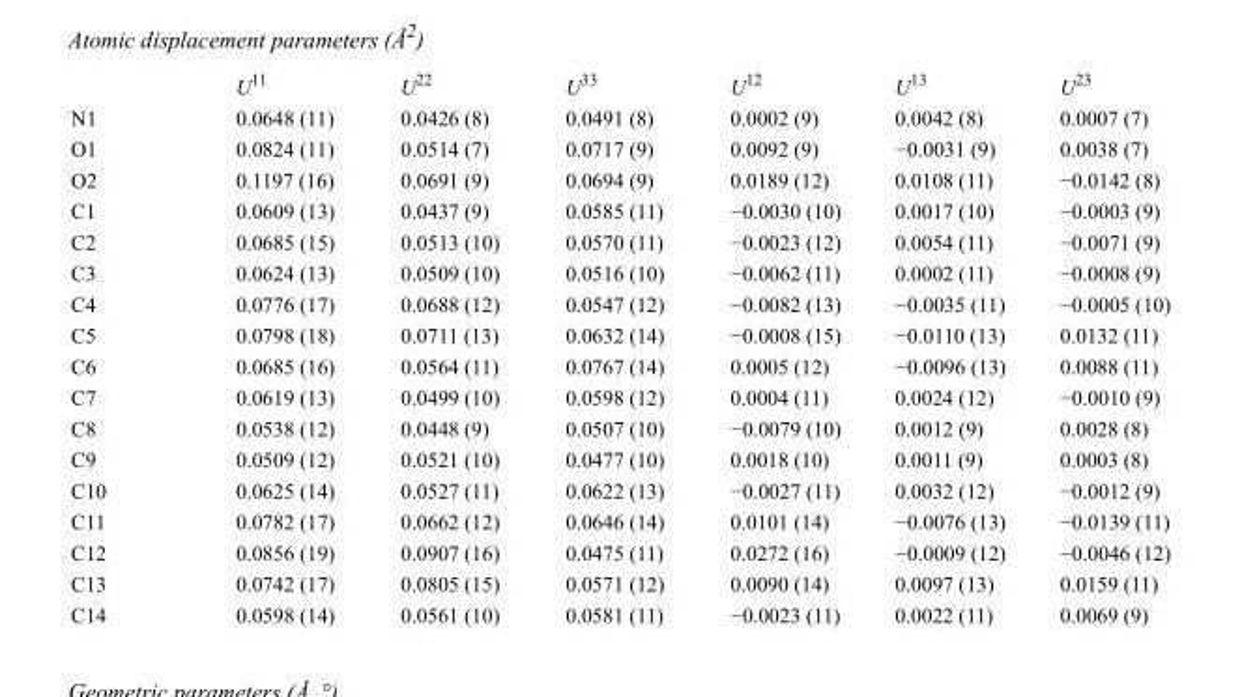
<table><thead><tr><td></td><td>U<sup>11</sup></td><td>U<sup>22</sup></td><td>U<sup>33</sup></td><td>U<sup>12</sup></td><td>U<sup>13</sup></td><td>U<sup>23</sup></td></tr></thead><tbody><tr><td>N1</td><td>0.0648 (11)</td><td>0.0426 (8)</td><td>0.0491 (8)</td><td>0.0002 (9)</td><td>0.0042 (8)</td><td>0.0007 (7)</td></tr><tr><td>O1</td><td>0.0824 (11)</td><td>0.0514 (7)</td><td>0.0717 (9)</td><td>0.0092 (9)</td><td>−0.0031 (9)</td><td>0.0038 (7)</td></tr><tr><td>O2</td><td>0.1197 (16)</td><td>0.0691 (9)</td><td>0.0694 (9)</td><td>0.0189 (12)</td><td>0.0108 (11)</td><td>−0.0142 (8)</td></tr><tr><td>C1</td><td>0.0609 (13)</td><td>0.0437 (9)</td><td>0.0585 (11)</td><td>−0.0030 (10)</td><td>0.0017 (10)</td><td>−0.0003 (9)</td></tr><tr><td>C2</td><td>0.0685 (15)</td><td>0.0513 (10)</td><td>0.0570 (11)</td><td>−0.0023 (12)</td><td>0.0054 (11)</td><td>−0.0071 (9)</td></tr><tr><td>C3</td><td>0.0624 (13)</td><td>0.0509 (10)</td><td>0.0516 (10)</td><td>−0.0062 (11)</td><td>0.0002 (11)</td><td>−0.0008 (9)</td></tr><tr><td>C4</td><td>0.0776 (17)</td><td>0.0688 (12)</td><td>0.0547 (12)</td><td>−0.0082 (13)</td><td>−0.0035 (11)</td><td>−0.0005 (10)</td></tr><tr><td>C5</td><td>0.0798 (18)</td><td>0.0711 (13)</td><td>0.0632 (14)</td><td>−0.0008 (15)</td><td>−0.0110 (13)</td><td>0.0132 (11)</td></tr><tr><td>C6</td><td>0.0685 (16)</td><td>0.0564 (11)</td><td>0.0767 (14)</td><td>0.0005 (12)</td><td>−0.0096 (13)</td><td>0.0088 (11)</td></tr><tr><td>C7</td><td>0.0619 (13)</td><td>0.0499 (10)</td><td>0.0598 (12)</td><td>0.0004 (11)</td><td>0.0024 (12)</td><td>−0.0010 (9)</td></tr><tr><td>C8</td><td>0.0538 (12)</td><td>0.0448 (9)</td><td>0.0507 (10)</td><td>−0.0079 (10)</td><td>0.0012 (9)</td><td>0.0028 (8)</td></tr><tr><td>C9</td><td>0.0509 (12)</td><td>0.0521 (10)</td><td>0.0477 (10)</td><td>0.0018 (10)</td><td>0.0011 (9)</td><td>0.0003 (8)</td></tr><tr><td>C10</td><td>0.0625 (14)</td><td>0.0527 (11)</td><td>0.0622 (13)</td><td>−0.0027 (11)</td><td>0.0032 (12)</td><td>−0.0012 (9)</td></tr><tr><td>C11</td><td>0.0782 (17)</td><td>0.0662 (12)</td><td>0.0646 (14)</td><td>0.0101 (14)</td><td>−0.0076 (13)</td><td>−0.0139 (11)</td></tr><tr><td>C12</td><td>0.0856 (19)</td><td>0.0907 (16)</td><td>0.0475 (11)</td><td>0.0272 (16)</td><td>−0.0009 (12)</td><td>−0.0046 (12)</td></tr><tr><td>C13</td><td>0.0742 (17)</td><td>0.0805 (15)</td><td>0.0571 (12)</td><td>0.0090 (14)</td><td>0.0097 (13)</td><td>0.0159 (11)</td></tr><tr><td>C14</td><td>0.0598 (14)</td><td>0.0561 (10)</td><td>0.0581 (11)</td><td>−0.0023 (11)</td><td>0.0022 (11)</td><td>0.0069 (9)</td></tr></tbody></table>